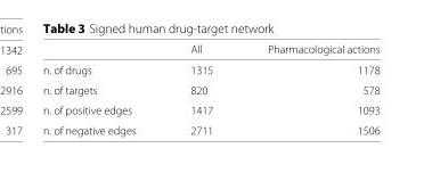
<table><thead><tr><td></td><td>All</td><td>Pharmacological actions</td></tr></thead><tbody><tr><td>n. of drugs</td><td>1315</td><td>1178</td></tr><tr><td>n. of targets</td><td>820</td><td>578</td></tr><tr><td>n. of positive edges</td><td>1417</td><td>1093</td></tr><tr><td>n. of negative edges</td><td>2711</td><td>1506</td></tr></tbody></table>